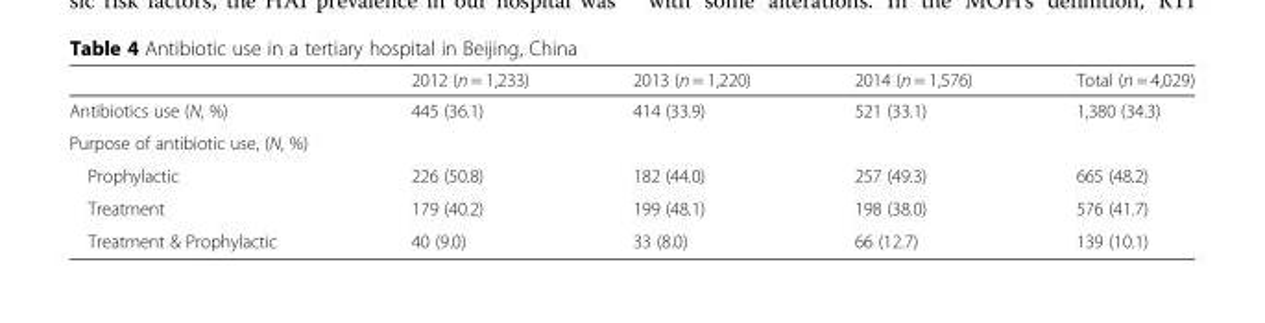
<table><thead><tr><td></td><td>2012 (n = 1,233)</td><td>2013 (n = 1,220)</td><td>2014 (n = 1,576)</td><td>Total (n = 4,029)</td></tr></thead><tbody><tr><td>Antibiotics use (N, %)</td><td>445 (36.1)</td><td>414 (33.9)</td><td>521 (33.1)</td><td>1,380 (34.3)</td></tr><tr><td colspan="5">Purpose of antibiotic use, (N, %)</td></tr><tr><td>Prophylactic</td><td>226 (50.8)</td><td>182 (44.0)</td><td>257 (49.3)</td><td>665 (48.2)</td></tr><tr><td>Treatment</td><td>179 (40.2)</td><td>199 (48.1)</td><td>198 (38.0)</td><td>576 (41.7)</td></tr><tr><td>Treatment &amp; Prophylactic</td><td>40 (9.0)</td><td>33 (8.0)</td><td>66 (12.7)</td><td>139 (10.1)</td></tr></tbody></table>